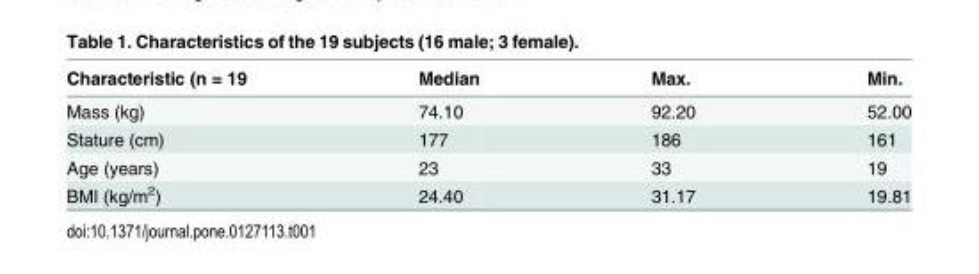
<table><thead><tr><td>Characteristic (n = 19</td><td>Median</td><td>Max.</td><td>Min.</td></tr></thead><tbody><tr><td>Mass (kg)</td><td>74.10</td><td>92.20</td><td>52.00</td></tr><tr><td>Stature (cm)</td><td>177</td><td>186</td><td>161</td></tr><tr><td>Age (years)</td><td>23</td><td>33</td><td>19</td></tr><tr><td>BMI (kg/m<sup>2</sup>)</td><td>24.40</td><td>31.17</td><td>19.81</td></tr></tbody></table>